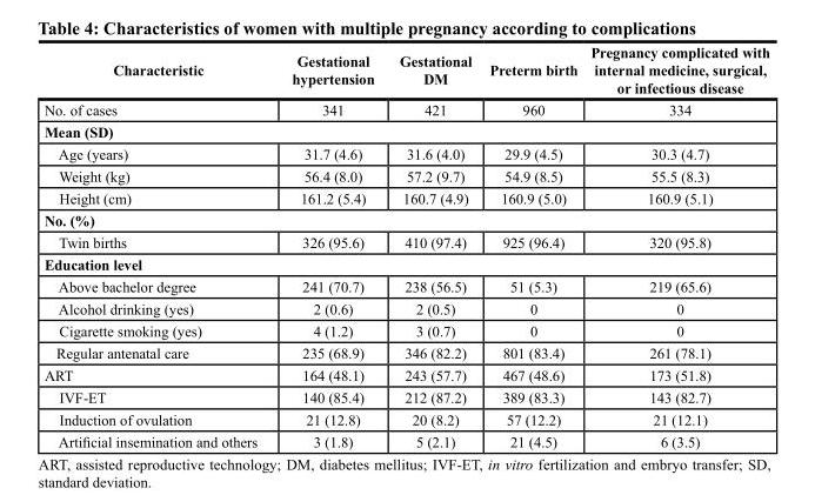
<table><thead><tr><td>Characteristic</td><td>Gestational hypertension</td><td>Gestational DM</td><td>Preterm birth</td><td>Pregnancy complicated with internal medicine, surgical, or infectious disease</td></tr></thead><tbody><tr><td>No. of cases</td><td>341</td><td>421</td><td>960</td><td>334</td></tr><tr><td colspan="5">Mean (SD)</td></tr><tr><td>Age (years)</td><td>31.7 (4.6)</td><td>31.6 (4.0)</td><td>29.9 (4.5)</td><td>30.3 (4.7)</td></tr><tr><td>Weight (kg)</td><td>56.4 (8.0)</td><td>57.2 (9.7)</td><td>54.9 (8.5)</td><td>55.5 (8.3)</td></tr><tr><td>Height (cm)</td><td>161.2 (5.4)</td><td>160.7 (4.9)</td><td>160.9 (5.0)</td><td>160.9 (5.1)</td></tr><tr><td colspan="5">No. (%)</td></tr><tr><td>Twin births</td><td>326 (95.6)</td><td>410 (97.4)</td><td>925 (96.4)</td><td>320 (95.8)</td></tr><tr><td colspan="5">Education level</td></tr><tr><td>Above bachelor degree</td><td>241 (70.7)</td><td>238 (56.5)</td><td>51 (5.3)</td><td>219 (65.6)</td></tr><tr><td>Alcohol drinking (yes)</td><td>2 (0.6)</td><td>2 (0.5)</td><td>0</td><td>0</td></tr><tr><td>Cigarette smoking (yes)</td><td>4 (1.2)</td><td>3 (0.7)</td><td>0</td><td>0</td></tr><tr><td>Regular antenatal care</td><td>235 (68.9)</td><td>346 (82.2)</td><td>801 (83.4)</td><td>261 (78.1)</td></tr><tr><td>ART</td><td>164 (48.1)</td><td>243 (57.7)</td><td>467 (48.6)</td><td>173 (51.8)</td></tr><tr><td>IVF-ET</td><td>140 (85.4)</td><td>212 (87.2)</td><td>389 (83.3)</td><td>143 (82.7)</td></tr><tr><td>Induction of ovulation</td><td>21 (12.8)</td><td>20 (8.2)</td><td>57 (12.2)</td><td>21 (12.1)</td></tr><tr><td>Artificial insemination and others</td><td>3 (1.8)</td><td>5 (2.1)</td><td>21 (4.5)</td><td>6 (3.5)</td></tr></tbody></table>